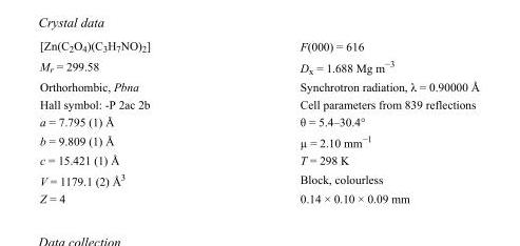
<table><tbody><tr><td>[Zn(C<sub>2</sub>O<sub>4</sub>)(C<sub>3</sub>H<sub>7</sub>NO)<sub>2</sub>]</td><td>F(000) = 616</td></tr><tr><td>M<sub>r</sub> = 299.58</td><td>D<sub>x</sub> = 1.688 Mg m<sup>−3</sup></td></tr><tr><td>Orthorhombic, Pbna</td><td>Synchrotron radiation, λ = 0.90000 Å</td></tr><tr><td>Hall symbol: -P 2ac 2b</td><td>Cell parameters from 839 reflections</td></tr><tr><td>a = 7.795 (1) Å</td><td>θ = 5.4–30.4°</td></tr><tr><td>b = 9.809 (1) Å</td><td>µ = 2.10 mm<sup>−1</sup></td></tr><tr><td>c = 15.421 (1) Å</td><td>T = 298 K</td></tr><tr><td>V = 1179.1 (2) Å<sup>3</sup></td><td>Block, colourless</td></tr><tr><td>Z = 4</td><td>0.14 × 0.10 × 0.09 mm</td></tr></tbody></table>